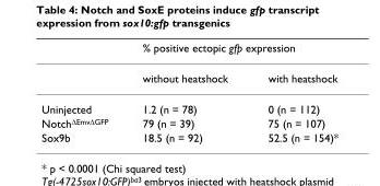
<table><thead><tr><td rowspan="2"></td><td colspan="2">% positive ectopic gfp expression</td></tr><tr><td>without heatshock</td><td>with heatshock</td></tr></thead><tbody><tr><td>Uninjected</td><td>1.2 (n = 78)</td><td>0 (n = 112)</td></tr><tr><td>Notch<sup>ΔEmvΔGFP</sup></td><td>79 (n = 39)</td><td>75 (n = 107)</td></tr><tr><td>Sox9b</td><td>18.5 (n = 92)</td><td>52.5 (n = 154)*</td></tr></tbody></table>